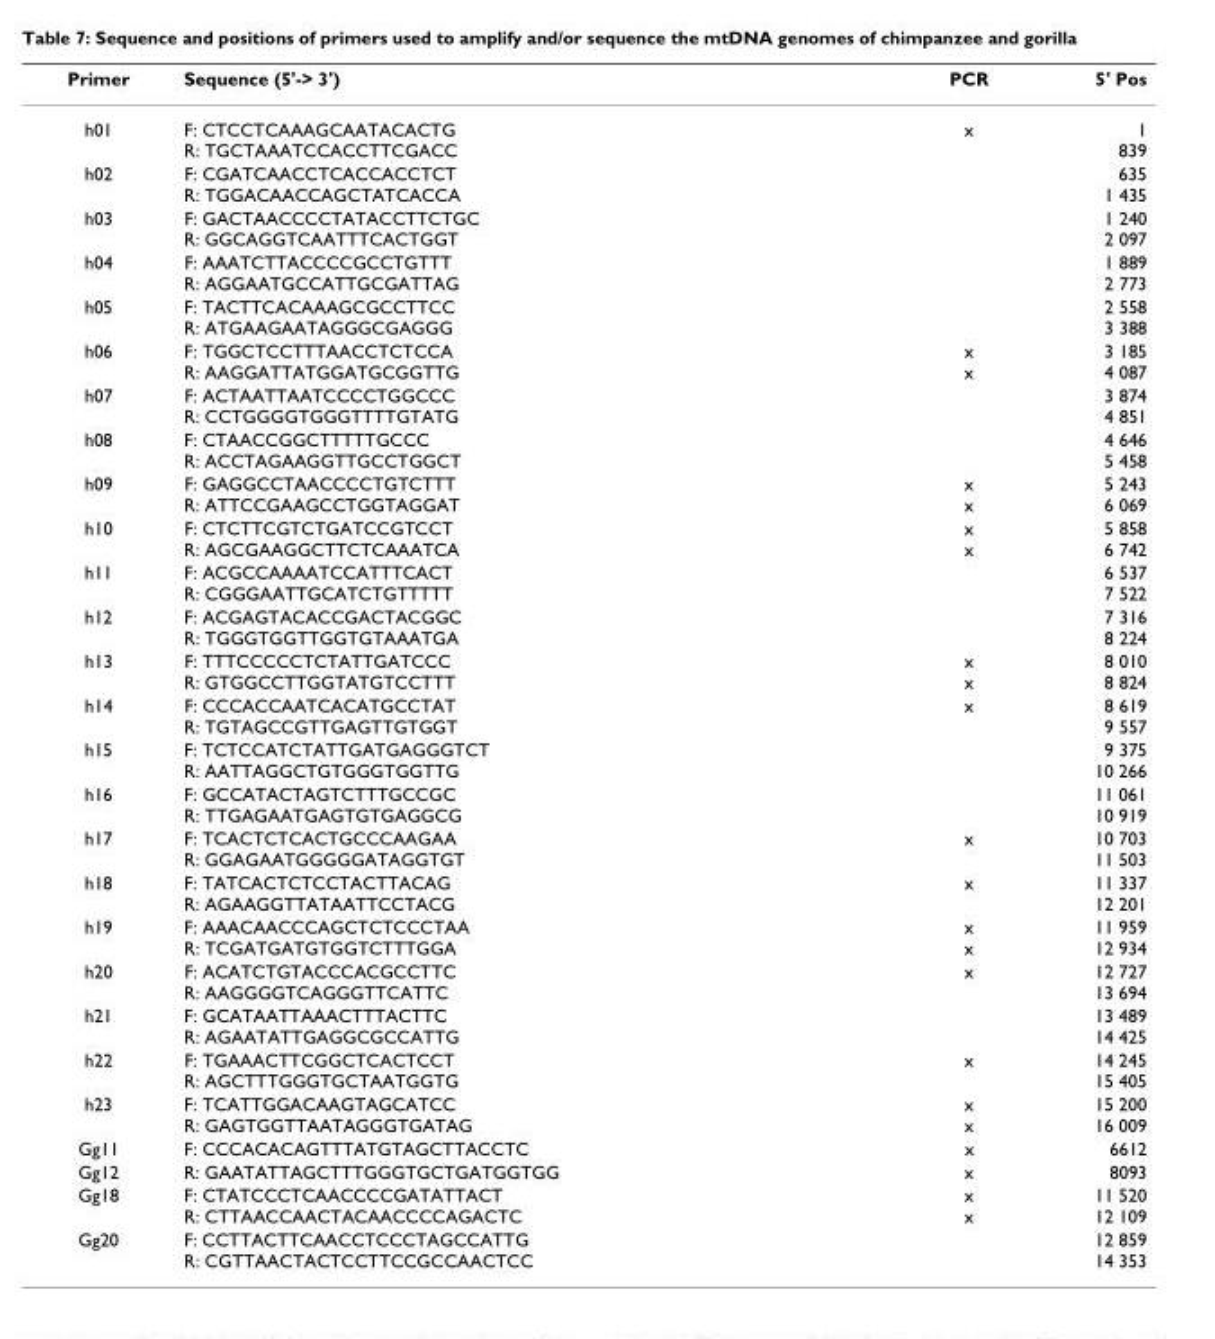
<table><thead><tr><td>Primer</td><td>Sequence (5&#x27;-&gt; 3&#x27;)</td><td>PCR</td><td>5&#x27; Pos</td></tr></thead><tbody><tr><td>h01</td><td>F: CTCCTCAAAGCAATACACTG R: TGCTAAATCCACCTTCGACC</td><td>x</td><td>1 839</td></tr><tr><td>h02</td><td>F: CGATCAACCTCACCACCTCT R: TGGACAACCAGCTATCACCA</td><td></td><td>635 1 435</td></tr><tr><td>h03</td><td>F: GACTAACCCCTATACCTTCTGC R: GGCAGGTCAATTTCACTGGT</td><td></td><td>1 240 2 097</td></tr><tr><td>h04</td><td>F: AAATCTTACCCCGCCTGTTT R: AGGAATGCCATTGCGATTAG</td><td></td><td>1 889 2 773</td></tr><tr><td>h05</td><td>F: TACTTCACAAAGCGCCTTCC R: ATGAAGAATAGGGCGAGGG</td><td></td><td>2 558 3 388</td></tr><tr><td>h06</td><td>F: TGGCTCCTTTAACCTCTCCA R: AAGGATTATGGATGCGGTTG</td><td>x x</td><td>3 185 4 087</td></tr><tr><td>h07</td><td>F: ACTAATTAATCCCCTGGCCC R: CCTGGGGTGGGTTTTGTATG</td><td></td><td>3 874 4 851</td></tr><tr><td>h08</td><td>F: CTAACCGGCTTTTTGCCC R: ACCTAGAAGGTTGCCTGGCT</td><td></td><td>4 646 5 458</td></tr><tr><td>h09</td><td>F: GAGGCCTAACCCCTGTCTTT R: ATTCCGAAGCCTGGTAGGAT</td><td>x x</td><td>5 243 6 069</td></tr><tr><td>h10</td><td>F: CTCTTCGTCTGATCCGTCCT R: AGCGAAGGCTTCTCAAATCA</td><td>x x</td><td>5 858 6 742</td></tr><tr><td>h11</td><td>F: ACGCCAAAATCCATTTCACT R: CGGGAATTGCATCTGTTTTT</td><td></td><td>6 537 7 522</td></tr><tr><td>h12</td><td>F: ACGAGTACACCGACTACGGC R: TGGGTGGTTGGTGTAAATGA</td><td></td><td>7 316 8 224</td></tr><tr><td>h13</td><td>F: TTTCCCCCTCTATTGATCCC R: GTGGCCTTGGTATGTCCTTT</td><td>x x</td><td>8 010 8 824</td></tr><tr><td>h14</td><td>F: CCCACCAATCACATGCCTAT R: TGTAGCCGTTGAGTTGTGGT</td><td>x</td><td>8 619 9 557</td></tr><tr><td>h15</td><td>F: TCTCCATCTATTGATGAGGGTCT R: AATTAGGCTGTGGGTGGTTG</td><td></td><td>9 375 10 266</td></tr><tr><td>h16</td><td>F: GCCATACTAGTCTTTGCCGC R: TTGAGAATGAGTGTGAGGCG</td><td></td><td>11 061 10 919</td></tr><tr><td>h17</td><td>F: TCACTCTCACTGCCCAAGAA R: GGAGAATGGGGGATAGGTGT</td><td>x</td><td>10 703 11 503</td></tr><tr><td>h18</td><td>F: TATCACTCTCCTACTTACAG R: AGAAGGTTATAATTCCTACG</td><td>x</td><td>11 337 12 201</td></tr><tr><td>h19</td><td>F: AAACAACCCAGCTCTCCCTAA R: TCGATGATGTGGTCTTTGGA</td><td>x x</td><td>11 959 12 934</td></tr><tr><td>h20</td><td>F: ACATCTGTACCCACGCCTTC R: AAGGGGTCAGGGTTCATTC</td><td>x</td><td>12 727 13 694</td></tr><tr><td>h21</td><td>F: GCATAATTAAACTTTACTTC R: AGAATATTGAGGCGCCATTG</td><td></td><td>13 489 14 425</td></tr><tr><td>h22</td><td>F: TGAAACTTCGGCTCACTCCT R: AGCTTTGGGTGCTAATGGTG</td><td>x</td><td>14 245 15 405</td></tr><tr><td>h23</td><td>F: TCATTGGACAAGTAGCATCC R: GAGTGGTTAATAGGGTGATAG</td><td>x x</td><td>15 200 16 009</td></tr><tr><td>Gg11</td><td>F: CCCACACAGTTTATGTAGCTTACCTC</td><td>x</td><td>6612</td></tr><tr><td>Gg12</td><td>R: GAATATTAGCTTTGGGTGCTGATGGTGG</td><td>x</td><td>8093</td></tr><tr><td>Gg18</td><td>F: CTATCCCTCAACCCCGATATTACT R: CTTAACCAACTACAACCCCAGACTC</td><td>x x</td><td>11 520 12 109</td></tr><tr><td>Gg20</td><td>F: CCTTACTTCAACCTCCCTAGCCATTG R: CGTTAACTACTCCTTCCGCCAACTCC</td><td></td><td>12 859 14 353</td></tr></tbody></table>